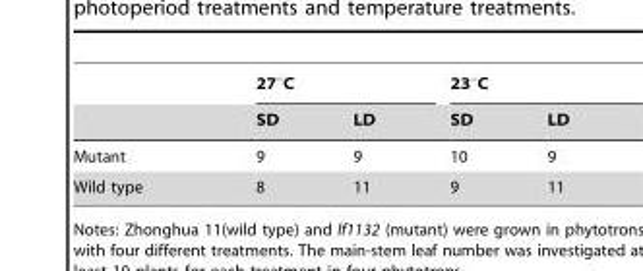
<table><thead><tr><td rowspan="2"></td><td colspan="2">27°C</td><td colspan="2">23°C</td></tr><tr><td>SD</td><td>LD</td><td>SD</td><td>LD</td></tr></thead><tbody><tr><td>Mutant</td><td>9</td><td>9</td><td>10</td><td>9</td></tr><tr><td>Wild type</td><td>8</td><td>11</td><td>9</td><td>11</td></tr></tbody></table>